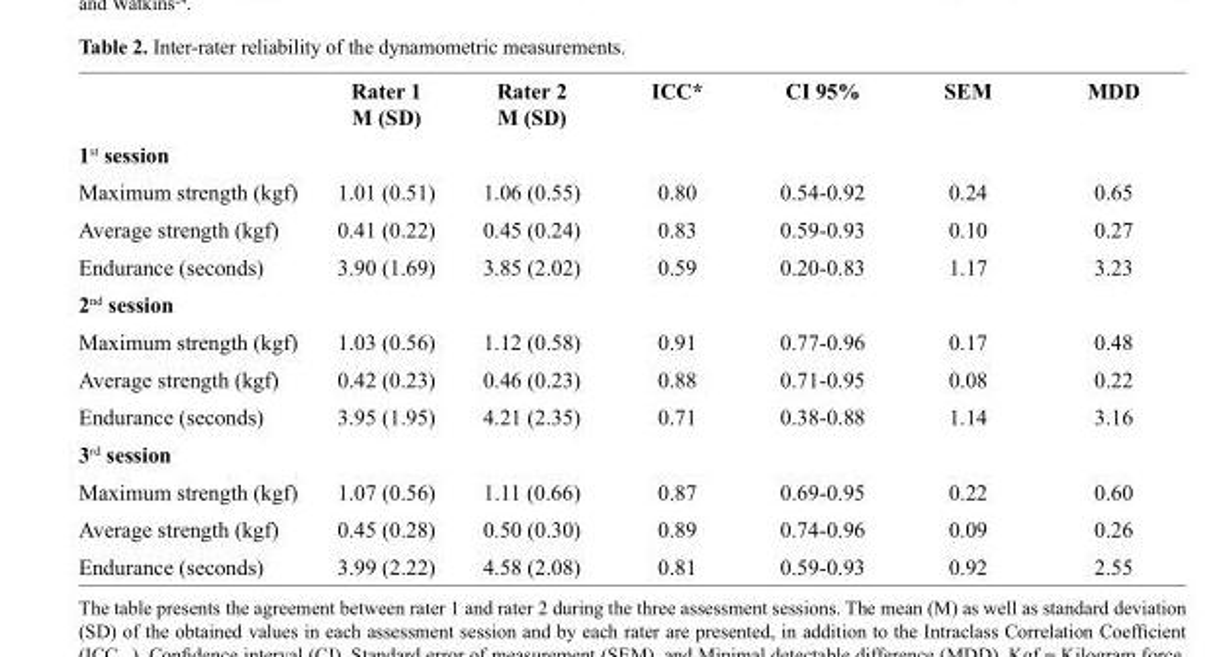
<table><thead><tr><td></td><td>Rater 1 M (SD)</td><td>Rater 2 M (SD)</td><td>ICC*</td><td>CI 95%</td><td>SEM</td><td>MDD</td></tr></thead><tbody><tr><td colspan="7">1<sup>st</sup> session</td></tr><tr><td>Maximum strength (kgf)</td><td>1.01 (0.51)</td><td>1.06 (0.55)</td><td>0.80</td><td>0.54-0.92</td><td>0.24</td><td>0.65</td></tr><tr><td>Average strength (kgf)</td><td>0.41 (0.22)</td><td>0.45 (0.24)</td><td>0.83</td><td>0.59-0.93</td><td>0.10</td><td>0.27</td></tr><tr><td>Endurance (seconds)</td><td>3.90 (1.69)</td><td>3.85 (2.02)</td><td>0.59</td><td>0.20-0.83</td><td>1.17</td><td>3.23</td></tr><tr><td colspan="7">2<sup>nd</sup> session</td></tr><tr><td>Maximum strength (kgf)</td><td>1.03 (0.56)</td><td>1.12 (0.58)</td><td>0.91</td><td>0.77-0.96</td><td>0.17</td><td>0.48</td></tr><tr><td>Average strength (kgf)</td><td>0.42 (0.23)</td><td>0.46 (0.23)</td><td>0.88</td><td>0.71-0.95</td><td>0.08</td><td>0.22</td></tr><tr><td>Endurance (seconds)</td><td>3.95 (1.95)</td><td>4.21 (2.35)</td><td>0.71</td><td>0.38-0.88</td><td>1.14</td><td>3.16</td></tr><tr><td colspan="7">3<sup>rd</sup> session</td></tr><tr><td>Maximum strength (kgf)</td><td>1.07 (0.56)</td><td>1.11 (0.66)</td><td>0.87</td><td>0.69-0.95</td><td>0.22</td><td>0.60</td></tr><tr><td>Average strength (kgf)</td><td>0.45 (0.28)</td><td>0.50 (0.30)</td><td>0.89</td><td>0.74-0.96</td><td>0.09</td><td>0.26</td></tr><tr><td>Endurance (seconds)</td><td>3.99 (2.22)</td><td>4.58 (2.08)</td><td>0.81</td><td>0.59-0.93</td><td>0.92</td><td>2.55</td></tr></tbody></table>